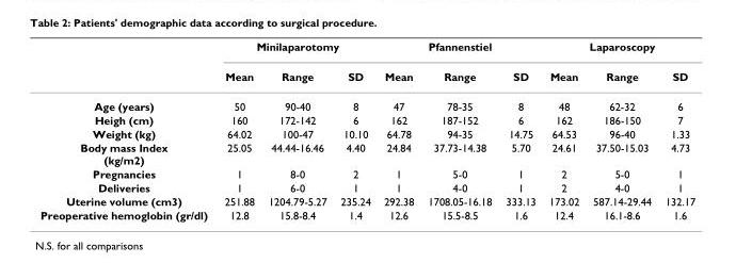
<table><thead><tr><td rowspan="2"></td><td colspan="3">Minilaparotomy</td><td colspan="3">Pfannenstiel</td><td colspan="3">Laparoscopy</td></tr><tr><td>Mean</td><td>Range</td><td>SD</td><td>Mean</td><td>Range</td><td>SD</td><td>Mean</td><td>Range</td><td>SD</td></tr></thead><tbody><tr><td>Age (years)</td><td>50</td><td>90-40</td><td>8</td><td>47</td><td>78-35</td><td>8</td><td>48</td><td>62-32</td><td>6</td></tr><tr><td>Heigh (cm)</td><td>160</td><td>172-142</td><td>6</td><td>162</td><td>187-152</td><td>6</td><td>162</td><td>186-150</td><td>7</td></tr><tr><td>Weight (kg)</td><td>64.02</td><td>100-47</td><td>10.10</td><td>64.78</td><td>94-35</td><td>14.75</td><td>64.53</td><td>96-40</td><td>1.33</td></tr><tr><td>Body mass Index (kg/m2)</td><td>25.05</td><td>44.44-16.46</td><td>4.40</td><td>24.84</td><td>37.73-14.38</td><td>5.70</td><td>24.61</td><td>37.50-15.03</td><td>4.73</td></tr><tr><td>Pregnancies</td><td>1</td><td>8-0</td><td>2</td><td>1</td><td>5-0</td><td>1</td><td>2</td><td>5-0</td><td>1</td></tr><tr><td>Deliveries</td><td>1</td><td>6-0</td><td>1</td><td>1</td><td>4-0</td><td>1</td><td>2</td><td>4-0</td><td>1</td></tr><tr><td>Uterine volume (cm3)</td><td>251.88</td><td>1204.79-5.27</td><td>235.24</td><td>292.38</td><td>1708.05-16.18</td><td>333.13</td><td>173.02</td><td>587.14-29.44</td><td>132.17</td></tr><tr><td>Preoperative hemoglobin (gr/dl)</td><td>12.8</td><td>15.8-8.4</td><td>1.4</td><td>12.6</td><td>15.5-8.5</td><td>1.6</td><td>12.4</td><td>16.1-8.6</td><td>1.6</td></tr></tbody></table>